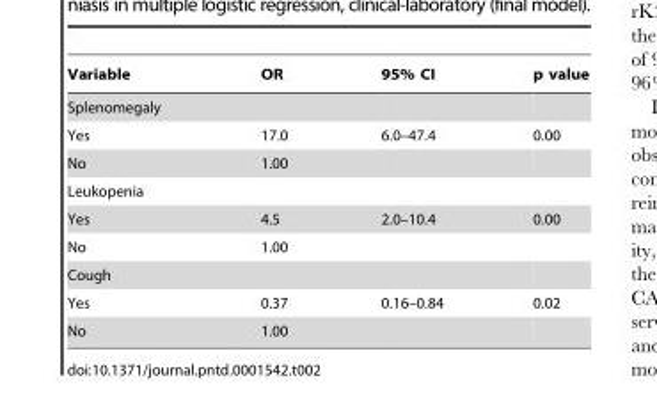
<table><thead><tr><td>Variable</td><td>OR</td><td>95% CI</td><td>p value</td></tr></thead><tbody><tr><td colspan="4">Splenomegaly</td></tr><tr><td>Yes</td><td>17.0</td><td>6.0–47.4</td><td>0.00</td></tr><tr><td>No</td><td>1.00</td><td></td><td></td></tr><tr><td colspan="4">Leukopenia</td></tr><tr><td>Yes</td><td>4.5</td><td>2.0–10.4</td><td>0.00</td></tr><tr><td>No</td><td>1.00</td><td></td><td></td></tr><tr><td colspan="4">Cough</td></tr><tr><td>Yes</td><td>0.37</td><td>0.16–0.84</td><td>0.02</td></tr><tr><td>No</td><td>1.00</td><td></td><td></td></tr></tbody></table>